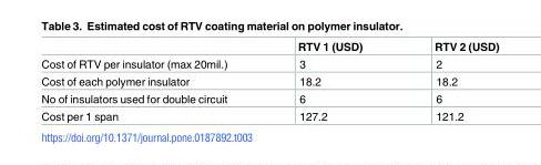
<table><thead><tr><td></td><td>RTV 1 (USD)</td><td>RTV 2 (USD)</td></tr></thead><tbody><tr><td>Cost of RTV per insulator (max 20mil.)</td><td>3</td><td>2</td></tr><tr><td>Cost of each polymer insulator</td><td>18.2</td><td>18.2</td></tr><tr><td>No of insulators used for double circuit</td><td>6</td><td>6</td></tr><tr><td>Cost per 1 span</td><td>127.2</td><td>121.2</td></tr></tbody></table>